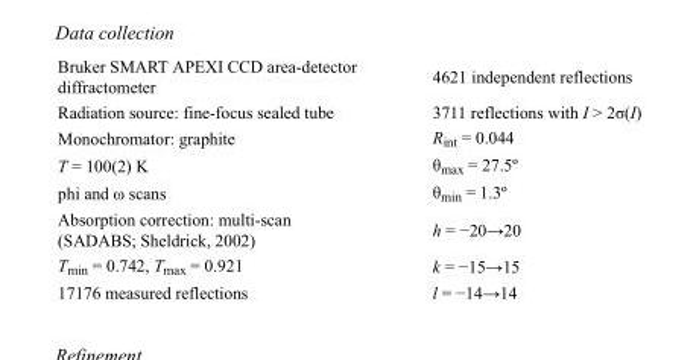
<table><tbody><tr><td>Bruker SMART APEXI CCD area-detector diffractometer</td><td>4621 independent reflections</td></tr><tr><td>Radiation source: fine-focus sealed tube</td><td>3711 reflections with I &gt; 2σ(I)</td></tr><tr><td>Monochromator: graphite</td><td>R<sub>int</sub> = 0.044</td></tr><tr><td>T = 100(2) K</td><td>θ<sub>max</sub> = 27.5º</td></tr><tr><td>phi and ω scans</td><td>θ<sub>min</sub> = 1.3º</td></tr><tr><td>Absorption correction: multi-scan (SADABS; Sheldrick, 2002)</td><td>h = −20→20</td></tr><tr><td>T<sub>min</sub> = 0.742, T<sub>max</sub> = 0.921</td><td>k = −15→15</td></tr><tr><td>17176 measured reflections</td><td>l = −14→14</td></tr></tbody></table>